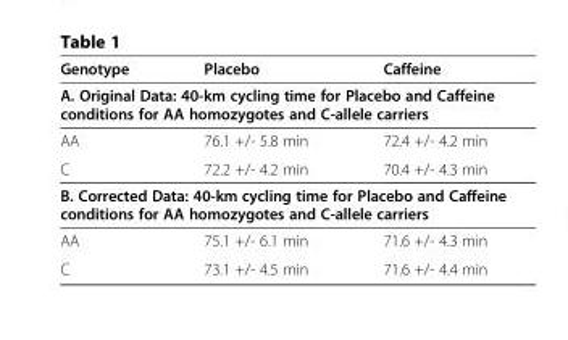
<table><tbody><tr><td>Genotype</td><td>Placebo</td><td>Caffeine</td></tr><tr><td colspan="3">A. Original Data: 40-km cycling time for Placebo and Caffeine conditions for AA homozygotes and C-allele carriers</td></tr><tr><td>AA</td><td>76.1 +/- 5.8 min</td><td>72.4 +/- 4.2 min</td></tr><tr><td>C</td><td>72.2 +/- 4.2 min</td><td>70.4 +/- 4.3 min</td></tr><tr><td colspan="3">B. Corrected Data: 40-km cycling time for Placebo and Caffeine conditions for AA homozygotes and C-allele carriers</td></tr><tr><td>AA</td><td>75.1 +/- 6.1 min</td><td>71.6 +/- 4.3 min</td></tr><tr><td>C</td><td>73.1 +/- 4.5 min</td><td>71.6 +/- 4.4 min</td></tr></tbody></table>